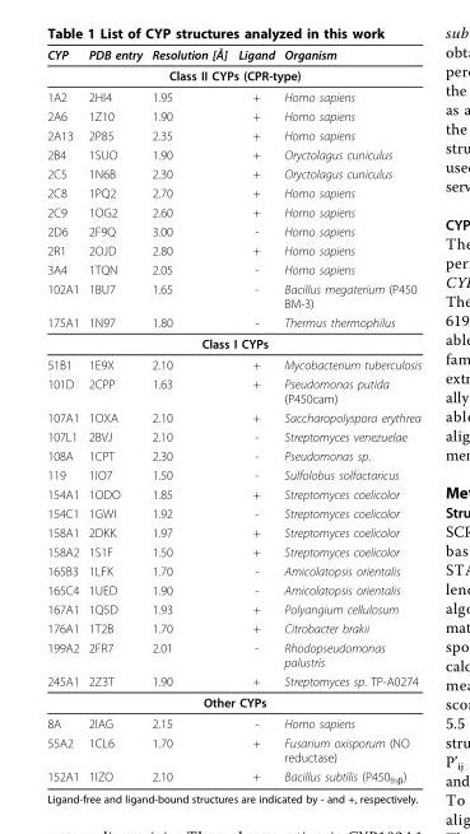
<table><thead><tr><td>CYP</td><td>PDB entry</td><td>Resolution [Å]</td><td>Ligand</td><td>Organism</td></tr></thead><tbody><tr><td colspan="5">Class II CYPs (CPR-type)</td></tr><tr><td>1A2</td><td>2HI4</td><td>1.95</td><td>+</td><td>Homo sapiens</td></tr><tr><td>2A6</td><td>1Z10</td><td>1.90</td><td>+</td><td>Homo sapiens</td></tr><tr><td>2A13</td><td>2P85</td><td>2.35</td><td>+</td><td>Homo sapiens</td></tr><tr><td>2B4</td><td>1SUO</td><td>1.90</td><td>+</td><td>Oryctolagus cuniculus</td></tr><tr><td>2C5</td><td>1N6B</td><td>2.30</td><td>+</td><td>Oryctolagus cuniculus</td></tr><tr><td>2C8</td><td>1PQ2</td><td>2.70</td><td>+</td><td>Homo sapiens</td></tr><tr><td>2C9</td><td>1OG2</td><td>2.60</td><td>+</td><td>Homo sapiens</td></tr><tr><td>2D6</td><td>2F9Q</td><td>3.00</td><td>-</td><td>Homo sapiens</td></tr><tr><td>2R1</td><td>2OJD</td><td>2.80</td><td>+</td><td>Homo sapiens</td></tr><tr><td>3A4</td><td>1TQN</td><td>2.05</td><td>-</td><td>Homo sapiens</td></tr><tr><td>102A1</td><td>1BU7</td><td>1.65</td><td>-</td><td>Bacillus megaterium (P450 BM-3)</td></tr><tr><td>175A1</td><td>1N97</td><td>1.80</td><td>-</td><td>Thermus thermophilus</td></tr><tr><td colspan="5">Class I CYPs</td></tr><tr><td>51B1</td><td>1E9X</td><td>2.10</td><td>+</td><td>Mycobacterium tuberculosis</td></tr><tr><td>101D</td><td>2CPP</td><td>1.63</td><td>+</td><td>Pseudomonas putida (P450cam)</td></tr><tr><td>107A1</td><td>1OXA</td><td>2.10</td><td>+</td><td>Saccharopolyspora erythrea</td></tr><tr><td>107L1</td><td>2BVJ</td><td>2.10</td><td>-</td><td>Streptomyces venezuelae</td></tr><tr><td>108A</td><td>1CPT</td><td>2.30</td><td>-</td><td>Pseudomonas sp.</td></tr><tr><td>119</td><td>1IO7</td><td>1.50</td><td>-</td><td>Sulfolobus solfactaricus</td></tr><tr><td>154A1</td><td>1ODO</td><td>1.85</td><td>+</td><td>Streptomyces coelicolor</td></tr><tr><td>154C1</td><td>1GWI</td><td>1.92</td><td>-</td><td>Streptomyces coelicolor</td></tr><tr><td>158A1</td><td>2DKK</td><td>1.97</td><td>+</td><td>Streptomyces coelicolor</td></tr><tr><td>158A2</td><td>1S1F</td><td>1.50</td><td>+</td><td>Streptomyces coelicolor</td></tr><tr><td>165B3</td><td>1LFK</td><td>1.70</td><td>-</td><td>Amicolatopsis orientalis</td></tr><tr><td>165C4</td><td>1UED</td><td>1.90</td><td>-</td><td>Amicolatopsis orientalis</td></tr><tr><td>167A1</td><td>1Q5D</td><td>1.93</td><td>+</td><td>Polyangium cellulosum</td></tr><tr><td>176A1</td><td>1T2B</td><td>1.70</td><td>+</td><td>Citrobacter brakii</td></tr><tr><td>199A2</td><td>2FR7</td><td>2.01</td><td>-</td><td>Rhodopseudomonas palustris</td></tr><tr><td>245A1</td><td>2Z3T</td><td>1.90</td><td>+</td><td>Streptomyces sp. TP-A0274</td></tr><tr><td colspan="5">Other CYPs</td></tr><tr><td>8A</td><td>2IAG</td><td>2.15</td><td>-</td><td>Homo sapiens</td></tr><tr><td>55A2</td><td>1CL6</td><td>1.70</td><td>+</td><td>Fusarium oxisporum (NO reductase)</td></tr><tr><td>152A1</td><td>1IZO</td><td>2.10</td><td>+</td><td>Bacillus subtilis (P450<sub>Bsβ</sub>)</td></tr></tbody></table>